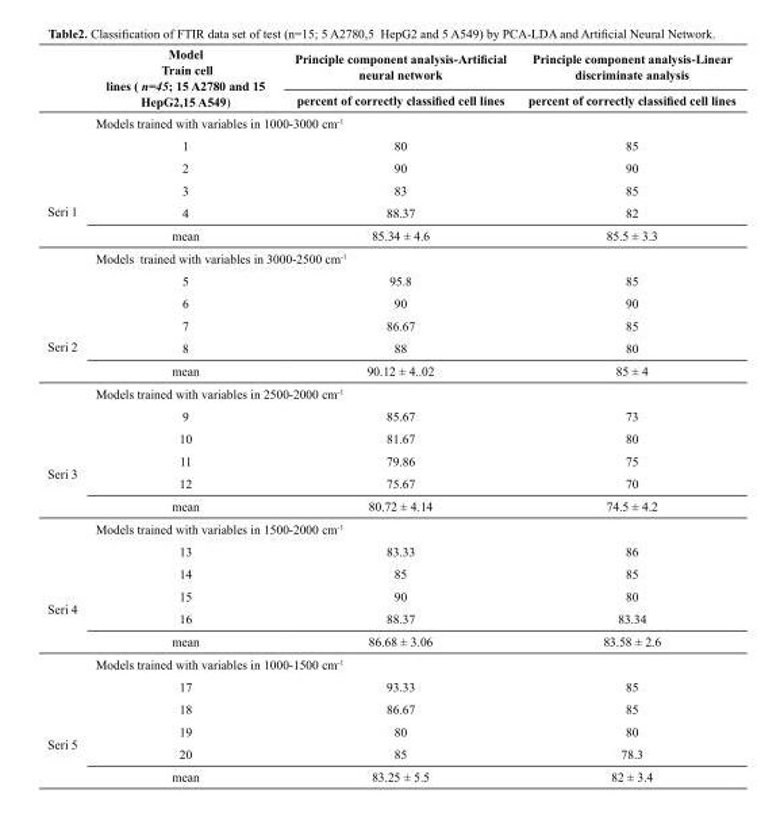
<table><thead><tr><td rowspan="2"></td><td rowspan="2">Model Train cell lines ( n=45; 15 A2780 and 15 HepG2,15 A549)</td><td rowspan="2">Principle component analysis-Artificial neural network percent of correctly classified cell lines</td><td rowspan="2">Principle component analysis-Linear discriminate analysis percent of correctly classified cell lines</td></tr><tr></tr></thead><tbody><tr><td rowspan="6">Seri 1</td><td colspan="3">Models trained with variables in 1000-3000 cm<sup>-1</sup></td></tr><tr><td>1</td><td>80</td><td>85</td></tr><tr><td>2</td><td>90</td><td>90</td></tr><tr><td>3</td><td>83</td><td>85</td></tr><tr><td>4</td><td>88.37</td><td>82</td></tr><tr><td>mean</td><td>85.34 ± 4.6</td><td>85.5 ± 3.3</td></tr><tr><td rowspan="6">Seri 2</td><td colspan="3">Models trained with variables in 3000-2500 cm<sup>-1</sup></td></tr><tr><td>5</td><td>95.8</td><td>85</td></tr><tr><td>6</td><td>90</td><td>90</td></tr><tr><td>7</td><td>86.67</td><td>85</td></tr><tr><td>8</td><td>88</td><td>80</td></tr><tr><td>mean</td><td>90.12 ± 4..02</td><td>85 ± 4</td></tr><tr><td rowspan="6">Seri 3</td><td colspan="3">Models trained with variables in 2500-2000 cm<sup>-1</sup></td></tr><tr><td>9</td><td>85.67</td><td>73</td></tr><tr><td>10</td><td>81.67</td><td>80</td></tr><tr><td>11</td><td>79.86</td><td>75</td></tr><tr><td>12</td><td>75.67</td><td>70</td></tr><tr><td>mean</td><td>80.72 ± 4.14</td><td>74.5 ± 4.2</td></tr><tr><td rowspan="6">Seri 4</td><td colspan="3">Models trained with variables in 1500-2000 cm<sup>-1</sup></td></tr><tr><td>13</td><td>83.33</td><td>86</td></tr><tr><td>14</td><td>85</td><td>85</td></tr><tr><td>15</td><td>90</td><td>80</td></tr><tr><td>16</td><td>88.37</td><td>83.34</td></tr><tr><td>mean</td><td>86.68 ± 3.06</td><td>83.58 ± 2.6</td></tr><tr><td rowspan="6">Seri 5</td><td colspan="3">Models trained with variables in 1000-1500 cm<sup>-1</sup></td></tr><tr><td>17</td><td>93.33</td><td>85</td></tr><tr><td>18</td><td>86.67</td><td>85</td></tr><tr><td>19</td><td>80</td><td>80</td></tr><tr><td>20</td><td>85</td><td>78.3</td></tr><tr><td>mean</td><td>83.25 ± 5.5</td><td>82 ± 3.4</td></tr></tbody></table>